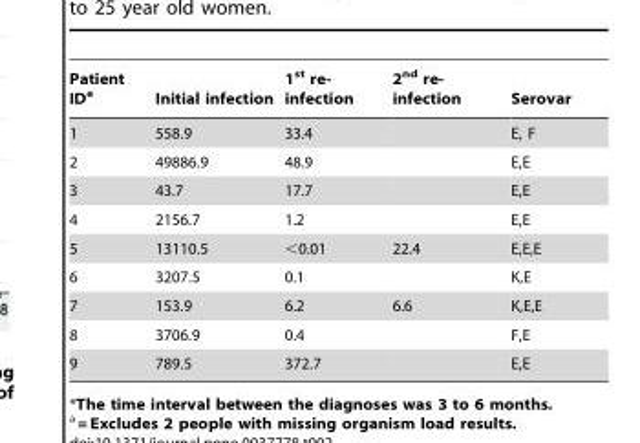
<table><thead><tr><td>Patient ID<sup>a</sup></td><td>Initial infection</td><td>1<sup>st</sup> re- infection</td><td>2<sup>nd</sup> re- infection</td><td>Serovar</td></tr></thead><tbody><tr><td>1</td><td>558.9</td><td>33.4</td><td></td><td>E, F</td></tr><tr><td>2</td><td>49886.9</td><td>48.9</td><td></td><td>E,E</td></tr><tr><td>3</td><td>43.7</td><td>17.7</td><td></td><td>E,E</td></tr><tr><td>4</td><td>2156.7</td><td>1.2</td><td></td><td>E,E</td></tr><tr><td>5</td><td>13110.5</td><td>&lt;0.01</td><td>22.4</td><td>E,E,E</td></tr><tr><td>6</td><td>3207.5</td><td>0.1</td><td></td><td>K,E</td></tr><tr><td>7</td><td>153.9</td><td>6.2</td><td>6.6</td><td>K,E,E</td></tr><tr><td>8</td><td>3706.9</td><td>0.4</td><td></td><td>F,E</td></tr><tr><td>9</td><td>789.5</td><td>372.7</td><td></td><td>E,E</td></tr></tbody></table>